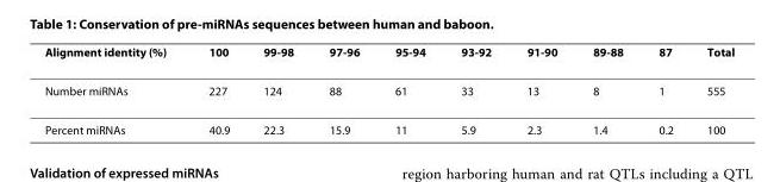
<table><thead><tr><td>Alignment identity (%)</td><td>100</td><td>99-98</td><td>97-96</td><td>95-94</td><td>93-92</td><td>91-90</td><td>89-88</td><td>87</td><td>Total</td></tr></thead><tbody><tr><td>Number miRNAs</td><td>227</td><td>124</td><td>88</td><td>61</td><td>33</td><td>13</td><td>8</td><td>1</td><td>555</td></tr><tr><td>Percent miRNAs</td><td>40.9</td><td>22.3</td><td>15.9</td><td>11</td><td>5.9</td><td>2.3</td><td>1.4</td><td>0.2</td><td>100</td></tr></tbody></table>